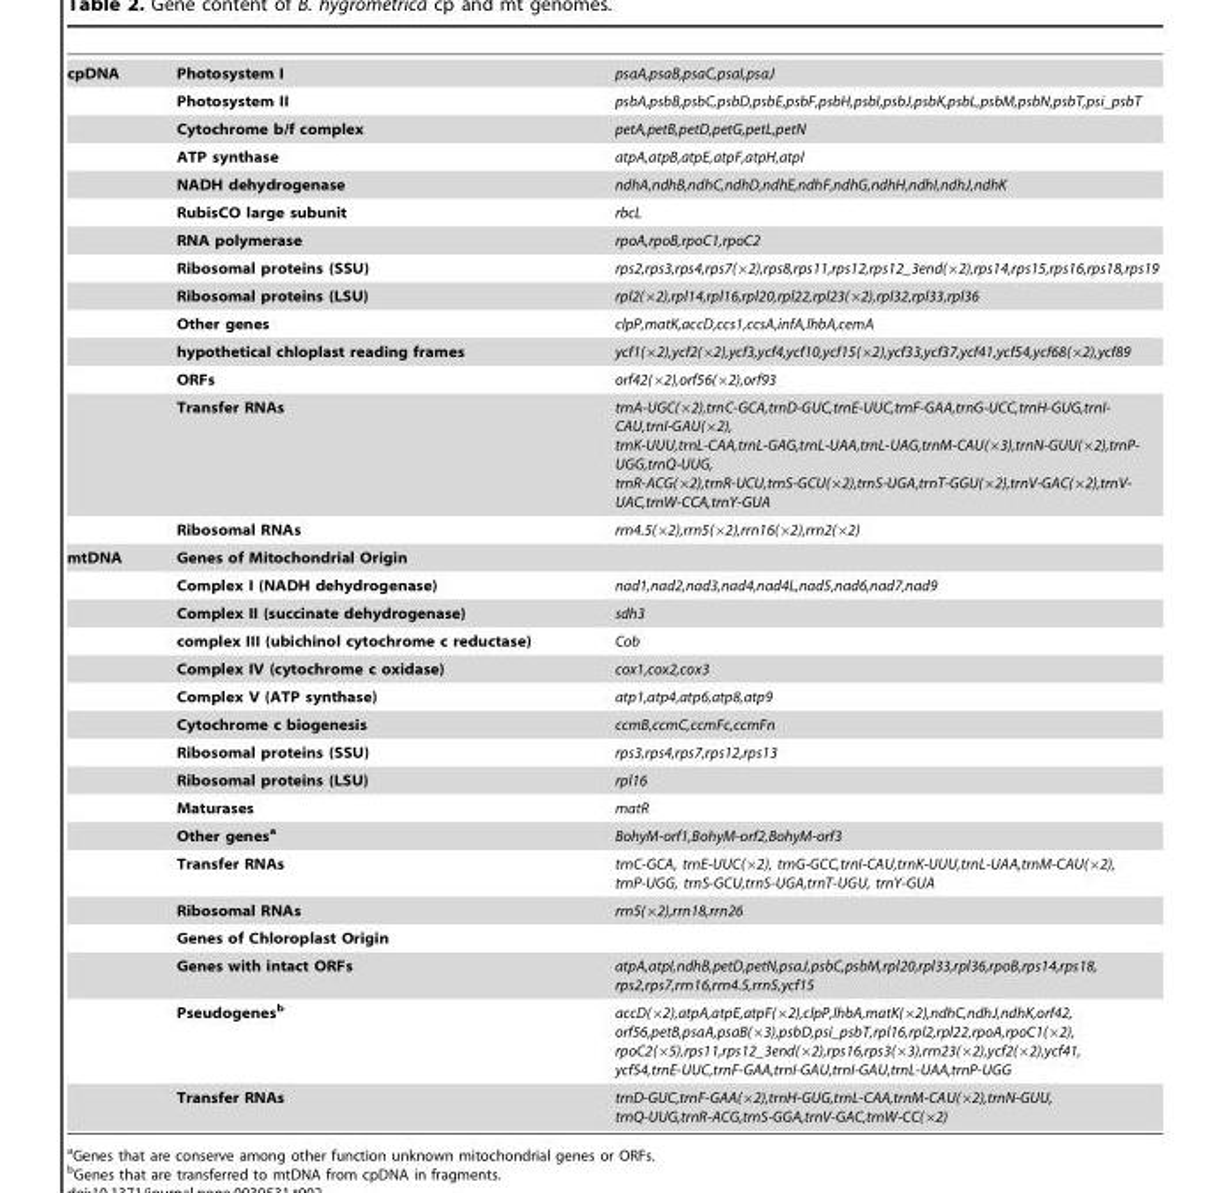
<table><tbody><tr><td rowspan="14">cpDNA</td><td>Photosystem I</td><td>psaA,psaB,psaC,psaI,psaJ</td></tr><tr><td>Photosystem II</td><td>psbA,psbB,psbC,psbD,psbE,psbF,psbH,psbI,psbJ,psbK,psbL,psbM,psbN,psbT,psi_psbT</td></tr><tr><td>Cytochrome b/f complex</td><td>petA,petB,petD,petG,petL,petN</td></tr><tr><td>ATP synthase</td><td>atpA,atpB,atpE,atpF,atpH,atpI</td></tr><tr><td>NADH dehydrogenase</td><td>ndhA,ndhB,ndhC,ndhD,ndhE,ndhF,ndhG,ndhH,ndhI,ndhJ,ndhK</td></tr><tr><td>RubisCO large subunit</td><td>rbcL</td></tr><tr><td>RNA polymerase</td><td>rpoA,rpoB,rpoC1,rpoC2</td></tr><tr><td>Ribosomal proteins (SSU)</td><td>rps2,rps3,rps4,rps7(×2),rps8,rps11,rps12,rps12_3end(×2),rps14,rps15,rps16,rps18,rps19</td></tr><tr><td>Ribosomal proteins (LSU)</td><td>rpl2(×2),rpl14,rpl16,rpl20,rpl22,rpl23(×2),rpl32,rpl33,rpl36</td></tr><tr><td>Other genes</td><td>clpP,matK,accD,ccs1,ccsA,infA,lhbA,cemA</td></tr><tr><td>hypothetical chloplast reading frames</td><td>ycf1(×2),ycf2(×2),ycf3,ycf4,ycf10,ycf15(×2),ycf33,ycf37,ycf41,ycf54,ycf68(×2),ycf89</td></tr><tr><td>ORFs</td><td>orf42(×2),orf56(×2),orf93</td></tr><tr><td>Transfer RNAs</td><td>trnA-UGC(×2),trnC-GCA,trnD-GUC,trnE-UUC,trnF-GAA,trnG-UCC,trnH-GUG,trnI- CAU,trnI-GAU(×2), trnK-UUU,trnL-CAA,trnL-GAG,trnL-UAA,trnL-UAG,trnM-CAU(×3),trnN-GUU(×2),trnP- UGG,trnQ-UUG, trnR-ACG(×2),trnR-UCU,trnS-GCU(×2),trnS-UGA,trnT-GGU(×2),trnV-GAC(×2),trnV- UAC,trnW-CCA,trnY-GUA</td></tr><tr><td>Ribosomal RNAs</td><td>rrn4.5(×2),rrn5(×2),rrn16(×2),rrn2(×2)</td></tr><tr><td rowspan="17">mtDNA</td><td colspan="2">Genes of Mitochondrial Origin</td></tr><tr><td>Complex I (NADH dehydrogenase)</td><td>nad1,nad2,nad3,nad4,nad4L,nad5,nad6,nad7,nad9</td></tr><tr><td>Complex II (succinate dehydrogenase)</td><td>sdh3</td></tr><tr><td>complex III (ubichinol cytochrome c reductase)</td><td>Cob</td></tr><tr><td>Complex IV (cytochrome c oxidase)</td><td>cox1,cox2,cox3</td></tr><tr><td>Complex V (ATP synthase)</td><td>atp1,atp4,atp6,atp8,atp9</td></tr><tr><td>Cytochrome c biogenesis</td><td>ccmB,ccmC,ccmFc,ccmFn</td></tr><tr><td>Ribosomal proteins (SSU)</td><td>rps3,rps4,rps7,rps12,rps13</td></tr><tr><td>Ribosomal proteins (LSU)</td><td>rpl16</td></tr><tr><td>Maturases</td><td>matR</td></tr><tr><td>Other genesa</td><td>BohyM-orf1,BohyM-orf2,BohyM-orf3</td></tr><tr><td>Transfer RNAs</td><td>trnC-GCA, trnE-UUC(×2), trnG-GCC,trnI-CAU,trnK-UUU,trnL-UAA,trnM-CAU(×2), trnP-UGG, trnS-GCU,trnS-UGA,trnT-UGU, trnY-GUA</td></tr><tr><td>Ribosomal RNAs</td><td>rrn5(×2),rrn18,rrn26</td></tr><tr><td colspan="2">Genes of Chloroplast Origin</td></tr><tr><td>Genes with intact ORFs</td><td>atpA,atpI,ndhB,petD,petN,psaJ,psbC,psbM,rpl20,rpl33,rpl36,rpoB,rps14,rps18, rps2,rps7,rrn16,rrn4.5,rrn5,ycf15</td></tr><tr><td>Pseudogenesb</td><td>accD(×2),atpA,atpE,atpF(×2),clpP,lhbA,matK(×2),ndhC,ndhJ,ndhK,orf42, orf56,petB,psaA,psaB(×3),psbD,psi_psbT,rpl16,rpl2,rpl22,rpoA,rpoC1(×2), rpoC2(×5),rps11,rps12_3end(×2),rps16,rps3(×3),rrn23(×2),ycf2(×2),ycf41, ycf54,trnE-UUC,trnF-GAA,trnI-GAU,trnI-GAU,trnL-UAA,trnP-UGG</td></tr><tr><td>Transfer RNAs</td><td>trnD-GUC,trnF-GAA(×2),trnH-GUG,trnL-CAA,trnM-CAU(×2),trnN-GUU, trnQ-UUG,trnR-ACG,trnS-GGA,trnV-GAC,trnW-CC(×2)</td></tr></tbody></table>